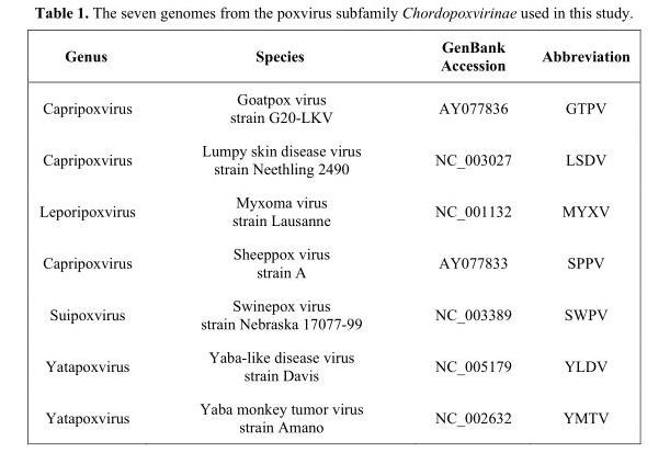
<table><thead><tr><td>Genus</td><td>Species</td><td>GenBank Accession</td><td>Abbreviation</td></tr></thead><tbody><tr><td>Capripoxvirus</td><td>Goatpox virus strain G20-LKV</td><td>AY077836</td><td>GTPV</td></tr><tr><td>Capripoxvirus</td><td>Lumpy skin disease virus strain Neethling 2490</td><td>NC_003027</td><td>LSDV</td></tr><tr><td>Leporipoxvirus</td><td>Myxoma virus strain Lausanne</td><td>NC_001132</td><td>MYXV</td></tr><tr><td>Capripoxvirus</td><td>Sheeppox virus strain A</td><td>AY077833</td><td>SPPV</td></tr><tr><td>Suipoxvirus</td><td>Swinepox virus strain Nebraska 17077-99</td><td>NC_003389</td><td>SWPV</td></tr><tr><td>Yatapoxvirus</td><td>Yaba-like disease virus strain Davis</td><td>NC_005179</td><td>YLDV</td></tr><tr><td>Yatapoxvirus</td><td>Yaba monkey tumor virus strain Amano</td><td>NC_002632</td><td>YMTV</td></tr></tbody></table>